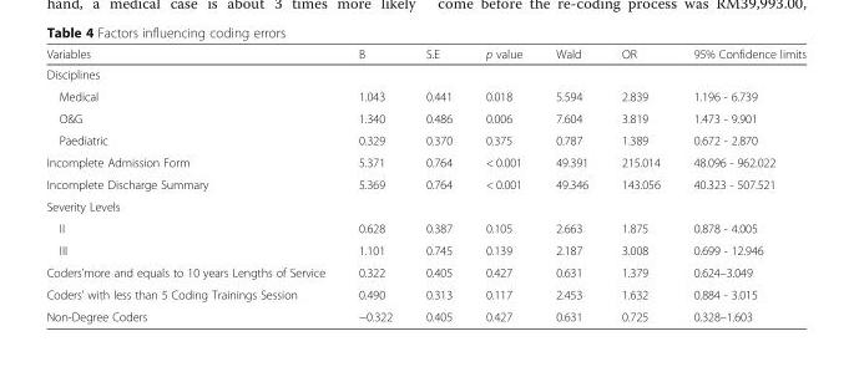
<table><thead><tr><td>Variables</td><td>B</td><td>S.E</td><td>p value</td><td>Wald</td><td>OR</td><td>95% Confidence limits</td></tr></thead><tbody><tr><td colspan="7">Disciplines</td></tr><tr><td>Medical</td><td>1.043</td><td>0.441</td><td>0.018</td><td>5.594</td><td>2.839</td><td>1.196 - 6.739</td></tr><tr><td>O&amp;G</td><td>1.340</td><td>0.486</td><td>0.006</td><td>7.604</td><td>3.819</td><td>1.473 - 9.901</td></tr><tr><td>Paediatric</td><td>0.329</td><td>0.370</td><td>0.375</td><td>0.787</td><td>1.389</td><td>0.672 - 2.870</td></tr><tr><td>Incomplete Admission Form</td><td>5.371</td><td>0.764</td><td>&lt; 0.001</td><td>49.391</td><td>215.014</td><td>48.096 - 962.022</td></tr><tr><td>Incomplete Discharge Summary</td><td>5.369</td><td>0.764</td><td>&lt; 0.001</td><td>49.346</td><td>143.056</td><td>40.323 - 507.521</td></tr><tr><td colspan="7">Severity Levels</td></tr><tr><td>II</td><td>0.628</td><td>0.387</td><td>0.105</td><td>2.663</td><td>1.875</td><td>0.878 - 4.005</td></tr><tr><td>III</td><td>1.101</td><td>0.745</td><td>0.139</td><td>2.187</td><td>3.008</td><td>0.699 - 12.946</td></tr><tr><td>Coders’more and equals to 10 years Lengths of Service</td><td>0.322</td><td>0.405</td><td>0.427</td><td>0.631</td><td>1.379</td><td>0.624–3.049</td></tr><tr><td>Coders’ with less than 5 Coding Trainings Session</td><td>0.490</td><td>0.313</td><td>0.117</td><td>2.453</td><td>1.632</td><td>0.884 - 3.015</td></tr><tr><td>Non-Degree Coders</td><td>−0.322</td><td>0.405</td><td>0.427</td><td>0.631</td><td>0.725</td><td>0.328–1.603</td></tr></tbody></table>